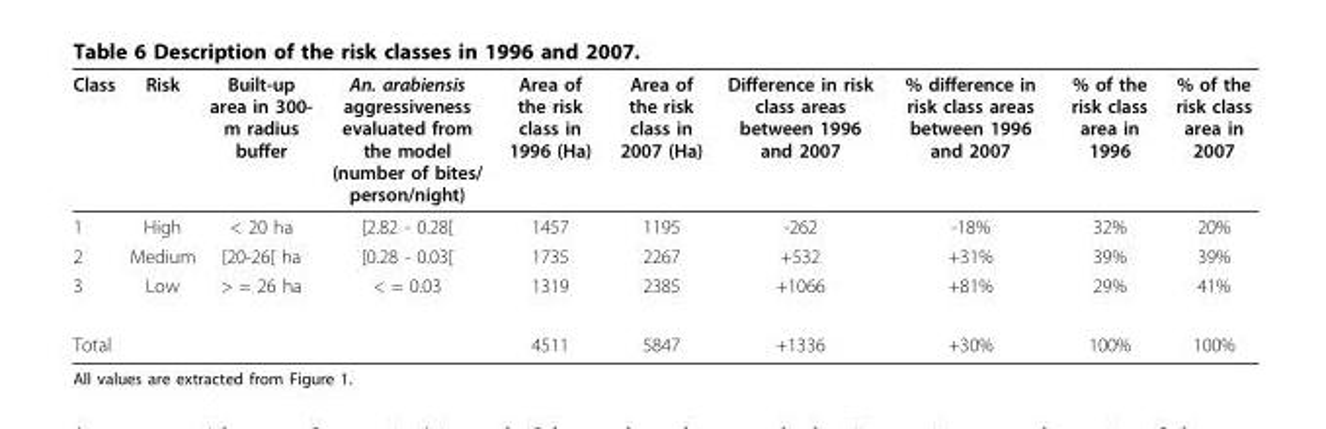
<table><thead><tr><td>Class</td><td>Risk</td><td>Built-up area in 300- m radius buffer</td><td>An. arabiensis aggressiveness evaluated from the model (number of bites/ person/night)</td><td>Area of the risk class in 1996 (Ha)</td><td>Area of the risk class in 2007 (Ha)</td><td>Difference in risk class areas between 1996 and 2007</td><td>% difference in risk class areas between 1996 and 2007</td><td>% of the risk class area in 1996</td><td>% of the risk class area in 2007</td></tr></thead><tbody><tr><td>1</td><td>High</td><td>&lt; 20 ha</td><td>[2.82 - 0.28[</td><td>1457</td><td>1195</td><td>-262</td><td>-18%</td><td>32%</td><td>20%</td></tr><tr><td>2</td><td>Medium</td><td>[20-26[ ha</td><td>[0.28 - 0.03[</td><td>1735</td><td>2267</td><td>+532</td><td>+31%</td><td>39%</td><td>39%</td></tr><tr><td>3</td><td>Low</td><td>&gt; = 26 ha</td><td>&lt; = 0.03</td><td>1319</td><td>2385</td><td>+1066</td><td>+81%</td><td>29%</td><td>41%</td></tr><tr><td>Total</td><td></td><td></td><td></td><td>4511</td><td>5847</td><td>+1336</td><td>+30%</td><td>100%</td><td>100%</td></tr></tbody></table>